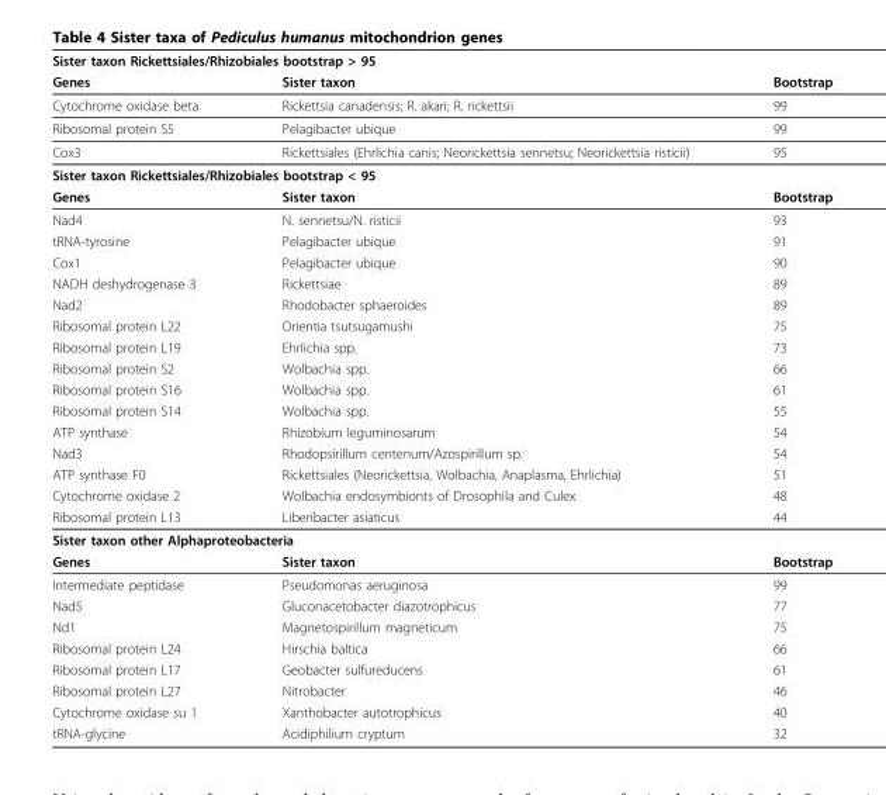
<table><thead><tr><td colspan="3">Sister taxon Rickettsiales/Rhizobiales bootstrap &gt; 95</td></tr><tr><td>Genes</td><td>Sister taxon</td><td>Bootstrap</td></tr></thead><tbody><tr><td>Cytochrome oxidase beta</td><td>Rickettsia canadensis; R. akari; R. rickettsii</td><td>99</td></tr><tr><td>Ribosomal protein S5</td><td>Pelagibacter ubique</td><td>99</td></tr><tr><td>Cox3</td><td>Rickettsiales (Ehrlichia canis; Neorickettsia sennetsu; Neorickettsia risticii)</td><td>95</td></tr><tr><td colspan="3">Sister taxon Rickettsiales/Rhizobiales bootstrap &lt; 95</td></tr><tr><td>Genes</td><td>Sister taxon</td><td>Bootstrap</td></tr><tr><td>Nad4</td><td>N. sennetsu/N. risticii</td><td>93</td></tr><tr><td>tRNA-tyrosine</td><td>Pelagibacter ubique</td><td>91</td></tr><tr><td>Cox1</td><td>Pelagibacter ubique</td><td>90</td></tr><tr><td>NADH deshydrogenase 3</td><td>Rickettsiae</td><td>89</td></tr><tr><td>Nad2</td><td>Rhodobacter sphaeroides</td><td>89</td></tr><tr><td>Ribosomal protein L22</td><td>Orientia tsutsugamushi</td><td>75</td></tr><tr><td>Ribosomal protein L19</td><td>Ehrlichia spp.</td><td>73</td></tr><tr><td>Ribosomal protein S2</td><td>Wolbachia spp.</td><td>66</td></tr><tr><td>Ribosomal protein S16</td><td>Wolbachia spp.</td><td>61</td></tr><tr><td>Ribosomal protein S14</td><td>Wolbachia spp.</td><td>55</td></tr><tr><td>ATP synthase</td><td>Rhizobium leguminosarum</td><td>54</td></tr><tr><td>Nad3</td><td>Rhodopsirillum centenum/Azospirillum sp.</td><td>54</td></tr><tr><td>ATP synthase F0</td><td>Rickettsiales (Neorickettsia, Wolbachia, Anaplasma, Ehrlichia)</td><td>51</td></tr><tr><td>Cytochrome oxidase 2</td><td>Wolbachia endosymbionts of Drosophila and Culex</td><td>48</td></tr><tr><td>Ribosomal protein L13</td><td>Liberibacter asiaticus</td><td>44</td></tr><tr><td colspan="3">Sister taxon other Alphaproteobacteria</td></tr><tr><td>Genes</td><td>Sister taxon</td><td>Bootstrap</td></tr><tr><td>Intermediate peptidase</td><td>Pseudomonas aeruginosa</td><td>99</td></tr><tr><td>Nad5</td><td>Gluconacetobacter diazotrophicus</td><td>77</td></tr><tr><td>Nd1</td><td>Magnetospirillum magneticum</td><td>75</td></tr><tr><td>Ribosomal protein L24</td><td>Hirschia baltica</td><td>66</td></tr><tr><td>Ribosomal protein L17</td><td>Geobacter sulfureducens</td><td>61</td></tr><tr><td>Ribosomal protein L27</td><td>Nitrobacter</td><td>46</td></tr><tr><td>Cytochrome oxidase su 1</td><td>Xanthobacter autotrophicus</td><td>40</td></tr><tr><td>tRNA-glycine</td><td>Acidiphilium cryptum</td><td>32</td></tr></tbody></table>